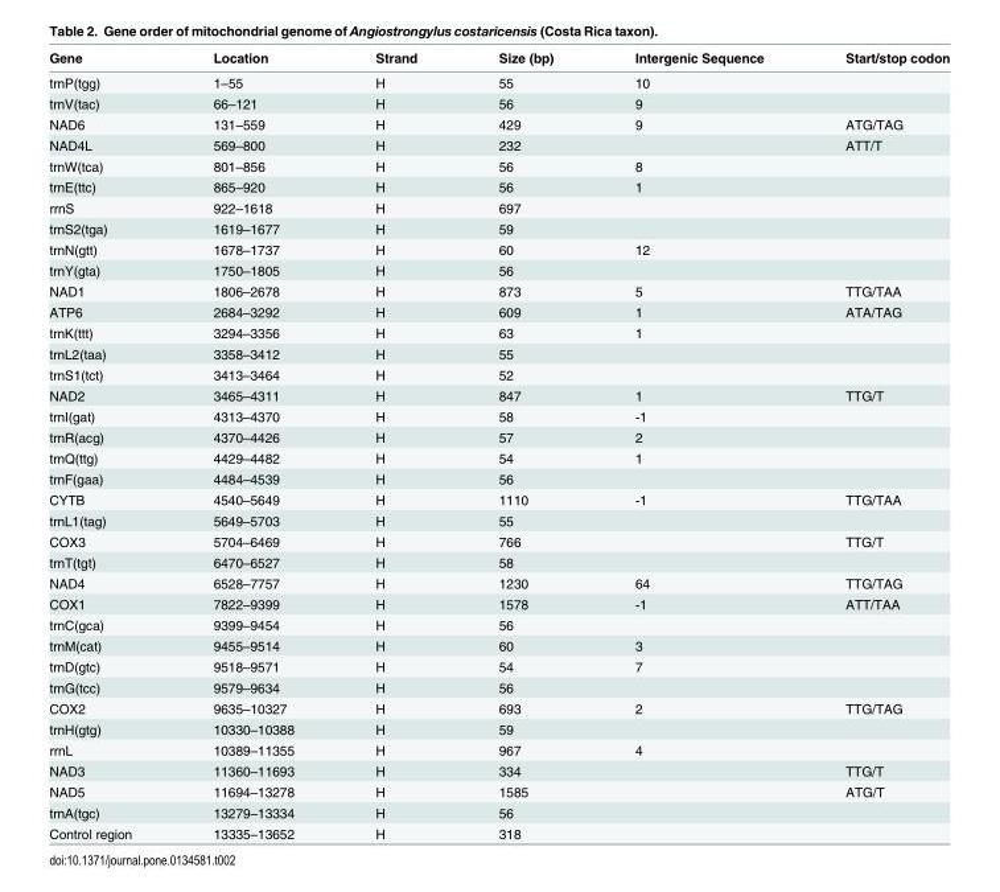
<table><thead><tr><td>Gene</td><td>Location</td><td>Strand</td><td>Size (bp)</td><td>Intergenic Sequence</td><td>Start/stop codon</td></tr></thead><tbody><tr><td>trnP(tgg)</td><td>1–55</td><td>H</td><td>55</td><td>10</td><td></td></tr><tr><td>trnV(tac)</td><td>66–121</td><td>H</td><td>56</td><td>9</td><td></td></tr><tr><td>NAD6</td><td>131–559</td><td>H</td><td>429</td><td>9</td><td>ATG/TAG</td></tr><tr><td>NAD4L</td><td>569–800</td><td>H</td><td>232</td><td></td><td>ATT/T</td></tr><tr><td>trnW(tca)</td><td>801–856</td><td>H</td><td>56</td><td>8</td><td></td></tr><tr><td>trnE(ttc)</td><td>865–920</td><td>H</td><td>56</td><td>1</td><td></td></tr><tr><td>rrnS</td><td>922–1618</td><td>H</td><td>697</td><td></td><td></td></tr><tr><td>trnS2(tga)</td><td>1619–1677</td><td>H</td><td>59</td><td></td><td></td></tr><tr><td>trnN(gtt)</td><td>1678–1737</td><td>H</td><td>60</td><td>12</td><td></td></tr><tr><td>trnY(gta)</td><td>1750–1805</td><td>H</td><td>56</td><td></td><td></td></tr><tr><td>NAD1</td><td>1806–2678</td><td>H</td><td>873</td><td>5</td><td>TTG/TAA</td></tr><tr><td>ATP6</td><td>2684–3292</td><td>H</td><td>609</td><td>1</td><td>ATA/TAG</td></tr><tr><td>trnK(ttt)</td><td>3294–3356</td><td>H</td><td>63</td><td>1</td><td></td></tr><tr><td>trnL2(taa)</td><td>3358–3412</td><td>H</td><td>55</td><td></td><td></td></tr><tr><td>trnS1(tct)</td><td>3413–3464</td><td>H</td><td>52</td><td></td><td></td></tr><tr><td>NAD2</td><td>3465–4311</td><td>H</td><td>847</td><td>1</td><td>TTG/T</td></tr><tr><td>trnI(gat)</td><td>4313–4370</td><td>H</td><td>58</td><td>-1</td><td></td></tr><tr><td>trnR(acg)</td><td>4370–4426</td><td>H</td><td>57</td><td>2</td><td></td></tr><tr><td>trnQ(ttg)</td><td>4429–4482</td><td>H</td><td>54</td><td>1</td><td></td></tr><tr><td>trnF(gaa)</td><td>4484–4539</td><td>H</td><td>56</td><td></td><td></td></tr><tr><td>CYTB</td><td>4540–5649</td><td>H</td><td>1110</td><td>-1</td><td>TTG/TAA</td></tr><tr><td>trnL1(tag)</td><td>5649–5703</td><td>H</td><td>55</td><td></td><td></td></tr><tr><td>COX3</td><td>5704–6469</td><td>H</td><td>766</td><td></td><td>TTG/T</td></tr><tr><td>trnT(tgt)</td><td>6470–6527</td><td>H</td><td>58</td><td></td><td></td></tr><tr><td>NAD4</td><td>6528–7757</td><td>H</td><td>1230</td><td>64</td><td>TTG/TAG</td></tr><tr><td>COX1</td><td>7822–9399</td><td>H</td><td>1578</td><td>-1</td><td>ATT/TAA</td></tr><tr><td>trnC(gca)</td><td>9399–9454</td><td>H</td><td>56</td><td></td><td></td></tr><tr><td>trnM(cat)</td><td>9455–9514</td><td>H</td><td>60</td><td>3</td><td></td></tr><tr><td>trnD(gtc)</td><td>9518–9571</td><td>H</td><td>54</td><td>7</td><td></td></tr><tr><td>trnG(tcc)</td><td>9579–9634</td><td>H</td><td>56</td><td></td><td></td></tr><tr><td>COX2</td><td>9635–10327</td><td>H</td><td>693</td><td>2</td><td>TTG/TAG</td></tr><tr><td>trnH(gtg)</td><td>10330–10388</td><td>H</td><td>59</td><td></td><td></td></tr><tr><td>rrnL</td><td>10389–11355</td><td>H</td><td>967</td><td>4</td><td></td></tr><tr><td>NAD3</td><td>11360–11693</td><td>H</td><td>334</td><td></td><td>TTG/T</td></tr><tr><td>NAD5</td><td>11694–13278</td><td>H</td><td>1585</td><td></td><td>ATG/T</td></tr><tr><td>trnA(tgc)</td><td>13279–13334</td><td>H</td><td>56</td><td></td><td></td></tr><tr><td>Control region</td><td>13335–13652</td><td>H</td><td>318</td><td></td><td></td></tr></tbody></table>